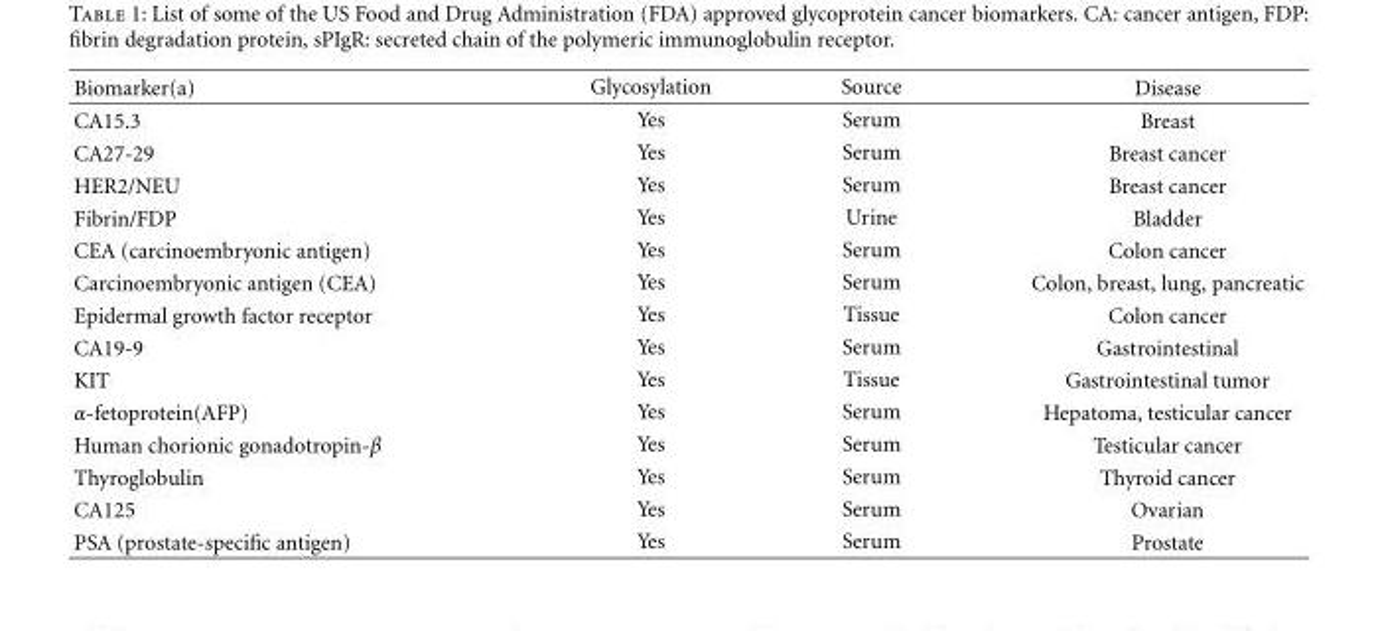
<table><thead><tr><td>Biomarker(a)</td><td>Glycosylation</td><td>Source</td><td>Disease</td></tr></thead><tbody><tr><td>CA15.3</td><td>Yes</td><td>Serum</td><td>Breast</td></tr><tr><td>CA27-29</td><td>Yes</td><td>Serum</td><td>Breast cancer</td></tr><tr><td>HER2/NEU</td><td>Yes</td><td>Serum</td><td>Breast cancer</td></tr><tr><td>Fibrin/FDP</td><td>Yes</td><td>Urine</td><td>Bladder</td></tr><tr><td>CEA (carcinoembryonic antigen)</td><td>Yes</td><td>Serum</td><td>Colon cancer</td></tr><tr><td>Carcinoembryonic antigen (CEA)</td><td>Yes</td><td>Serum</td><td>Colon, breast, lung, pancreatic</td></tr><tr><td>Epidermal growth factor receptor</td><td>Yes</td><td>Tissue</td><td>Colon cancer</td></tr><tr><td>CA19-9</td><td>Yes</td><td>Serum</td><td>Gastrointestinal</td></tr><tr><td>KIT</td><td>Yes</td><td>Tissue</td><td>Gastrointestinal tumor</td></tr><tr><td>α-fetoprotein(AFP)</td><td>Yes</td><td>Serum</td><td>Hepatoma, testicular cancer</td></tr><tr><td>Human chorionic gonadotropin-β</td><td>Yes</td><td>Serum</td><td>Testicular cancer</td></tr><tr><td>Thyroglobulin</td><td>Yes</td><td>Serum</td><td>Thyroid cancer</td></tr><tr><td>CA125</td><td>Yes</td><td>Serum</td><td>Ovarian</td></tr><tr><td>PSA (prostate-specific antigen)</td><td>Yes</td><td>Serum</td><td>Prostate</td></tr></tbody></table>